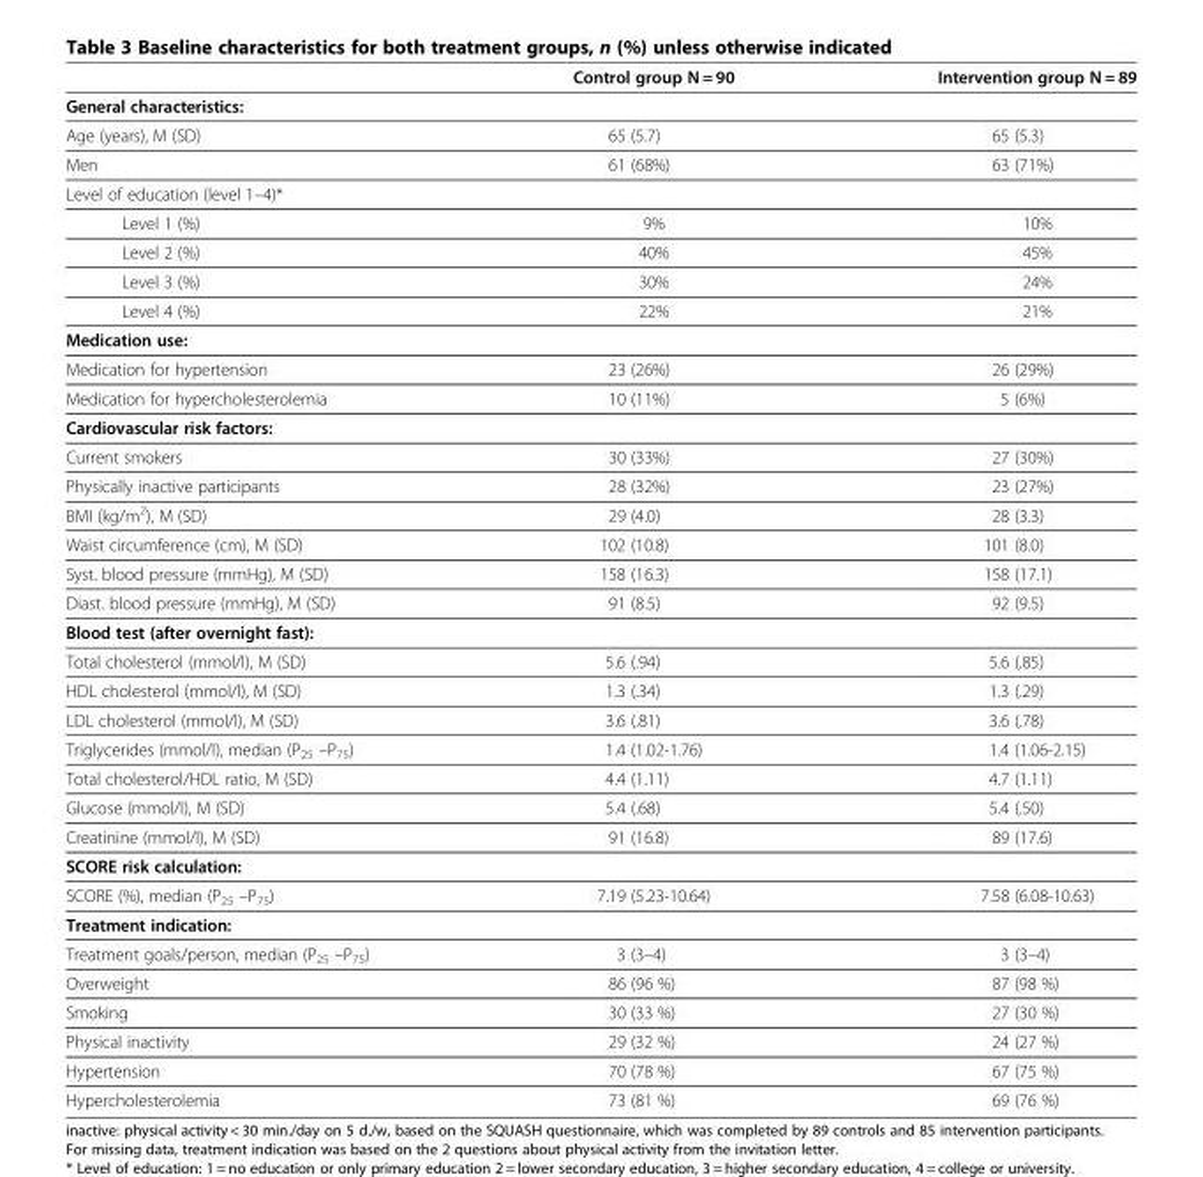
<table><thead><tr><td></td><td>Control group N = 90</td><td>Intervention group N = 89</td></tr></thead><tbody><tr><td colspan="3">General characteristics:</td></tr><tr><td>Age (years), M (SD)</td><td>65 (5.7)</td><td>65 (5.3)</td></tr><tr><td>Men</td><td>61 (68%)</td><td>63 (71%)</td></tr><tr><td colspan="3">Level of education (level 1–4)*</td></tr><tr><td>Level 1 (%)</td><td>9%</td><td>10%</td></tr><tr><td>Level 2 (%)</td><td>40%</td><td>45%</td></tr><tr><td>Level 3 (%)</td><td>30%</td><td>24%</td></tr><tr><td>Level 4 (%)</td><td>22%</td><td>21%</td></tr><tr><td colspan="3">Medication use:</td></tr><tr><td>Medication for hypertension</td><td>23 (26%)</td><td>26 (29%)</td></tr><tr><td>Medication for hypercholesterolemia</td><td>10 (11%)</td><td>5 (6%)</td></tr><tr><td colspan="3">Cardiovascular risk factors:</td></tr><tr><td>Current smokers</td><td>30 (33%)</td><td>27 (30%)</td></tr><tr><td>Physically inactive participants</td><td>28 (32%)</td><td>23 (27%)</td></tr><tr><td>BMI (kg/m<sup>2</sup>), M (SD)</td><td>29 (4.0)</td><td>28 (3.3)</td></tr><tr><td>Waist circumference (cm), M (SD)</td><td>102 (10.8)</td><td>101 (8.0)</td></tr><tr><td>Syst. blood pressure (mmHg), M (SD)</td><td>158 (16.3)</td><td>158 (17.1)</td></tr><tr><td>Diast. blood pressure (mmHg), M (SD)</td><td>91 (8.5)</td><td>92 (9.5)</td></tr><tr><td colspan="3">Blood test (after overnight fast):</td></tr><tr><td>Total cholesterol (mmol/l), M (SD)</td><td>5.6 (.94)</td><td>5.6 (.85)</td></tr><tr><td>HDL cholesterol (mmol/l), M (SD)</td><td>1.3 (.34)</td><td>1.3 (.29)</td></tr><tr><td>LDL cholesterol (mmol/l), M (SD)</td><td>3.6 (.81)</td><td>3.6 (.78)</td></tr><tr><td>Triglycerides (mmol/l), median (P<sub>25</sub> –P<sub>75</sub>)</td><td>1.4 (1.02-1.76)</td><td>1.4 (1.06-2.15)</td></tr><tr><td>Total cholesterol/HDL ratio, M (SD)</td><td>4.4 (1.11)</td><td>4.7 (1.11)</td></tr><tr><td>Glucose (mmol/l), M (SD)</td><td>5.4 (.68)</td><td>5.4 (.50)</td></tr><tr><td>Creatinine (mmol/l), M (SD)</td><td>91 (16.8)</td><td>89 (17.6)</td></tr><tr><td colspan="3">SCORE risk calculation:</td></tr><tr><td>SCORE (%), median (P<sub>25</sub> –P<sub>75</sub>)</td><td>7.19 (5.23-10.64)</td><td>7.58 (6.08-10.63)</td></tr><tr><td colspan="3">Treatment indication:</td></tr><tr><td>Treatment goals/person, median (P<sub>25</sub> –P<sub>75</sub>)</td><td>3 (3–4)</td><td>3 (3–4)</td></tr><tr><td>Overweight</td><td>86 (96 %)</td><td>87 (98 %)</td></tr><tr><td>Smoking</td><td>30 (33 %)</td><td>27 (30 %)</td></tr><tr><td>Physical inactivity</td><td>29 (32 %)</td><td>24 (27 %)</td></tr><tr><td>Hypertension</td><td>70 (78 %)</td><td>67 (75 %)</td></tr><tr><td>Hypercholesterolemia</td><td>73 (81 %)</td><td>69 (76 %)</td></tr></tbody></table>